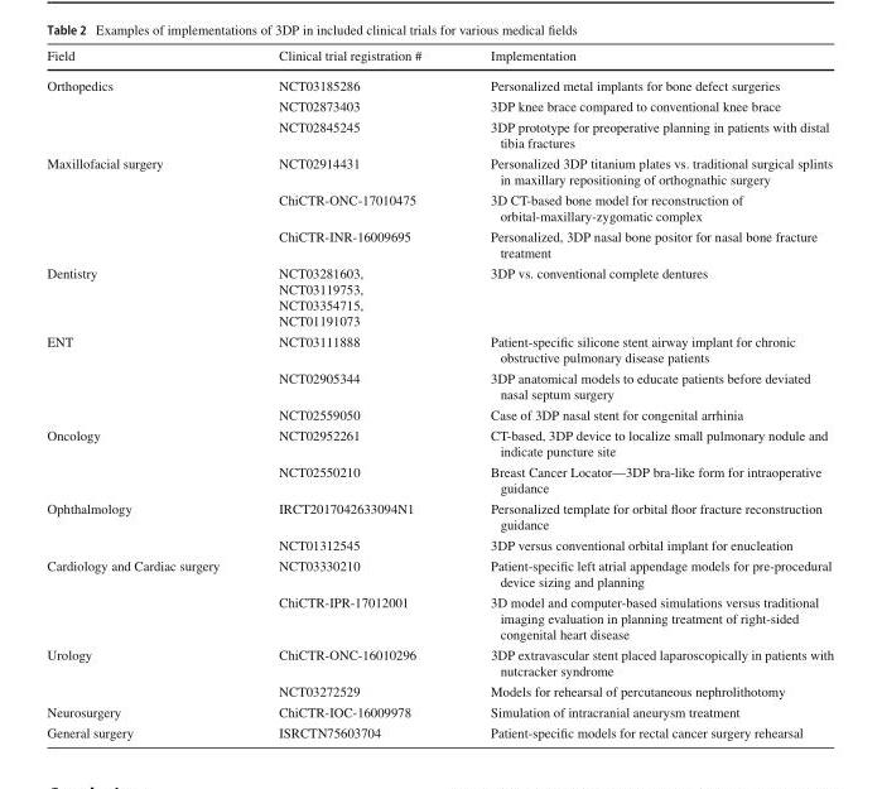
<table><thead><tr><td>Field</td><td>Clinical trial registration #</td><td>Implementation</td></tr></thead><tbody><tr><td rowspan="3">Orthopedics</td><td>NCT03185286</td><td>Personalized metal implants for bone defect surgeries</td></tr><tr><td>NCT02873403</td><td>3DP knee brace compared to conventional knee brace</td></tr><tr><td>NCT02845245</td><td>3DP prototype for preoperative planning in patients with distal tibia fractures</td></tr><tr><td rowspan="3">Maxillofacial surgery</td><td>NCT02914431</td><td>Personalized 3DP titanium plates vs. traditional surgical splints in maxillary repositioning of orthognathic surgery</td></tr><tr><td>ChiCTR-ONC-17010475</td><td>3D CT-based bone model for reconstruction of orbital-maxillary-zygomatic complex</td></tr><tr><td>ChiCTR-INR-16009695</td><td>Personalized, 3DP nasal bone positor for nasal bone fracture treatment</td></tr><tr><td>Dentistry</td><td>NCT03281603, NCT03119753, NCT03354715, NCT01191073</td><td>3DP vs. conventional complete dentures</td></tr><tr><td rowspan="3">ENT</td><td>NCT03111888</td><td>Patient-specific silicone stent airway implant for chronic obstructive pulmonary disease patients</td></tr><tr><td>NCT02905344</td><td>3DP anatomical models to educate patients before deviated nasal septum surgery</td></tr><tr><td>NCT02559050</td><td>Case of 3DP nasal stent for congenital arrhinia</td></tr><tr><td rowspan="2">Oncology</td><td>NCT02952261</td><td>CT-based, 3DP device to localize small pulmonary nodule and indicate puncture site</td></tr><tr><td>NCT02550210</td><td>Breast Cancer Locator—3DP bra-like form for intraoperative guidance</td></tr><tr><td rowspan="2">Ophthalmology</td><td>IRCT2017042633094N1</td><td>Personalized template for orbital floor fracture reconstruction guidance</td></tr><tr><td>NCT01312545</td><td>3DP versus conventional orbital implant for enucleation</td></tr><tr><td rowspan="2">Cardiology and Cardiac surgery</td><td>NCT03330210</td><td>Patient-specific left atrial appendage models for pre-procedural device sizing and planning</td></tr><tr><td>ChiCTR-IPR-17012001</td><td>3D model and computer-based simulations versus traditional imaging evaluation in planning treatment of right-sided congenital heart disease</td></tr><tr><td rowspan="2">Urology</td><td>ChiCTR-ONC-16010296</td><td>3DP extravascular stent placed laparoscopically in patients with nutcracker syndrome</td></tr><tr><td>NCT03272529</td><td>Models for rehearsal of percutaneous nephrolithotomy</td></tr><tr><td>Neurosurgery</td><td>ChiCTR-IOC-16009978</td><td>Simulation of intracranial aneurysm treatment</td></tr><tr><td>General surgery</td><td>ISRCTN75603704</td><td>Patient-specific models for rectal cancer surgery rehearsal</td></tr></tbody></table>